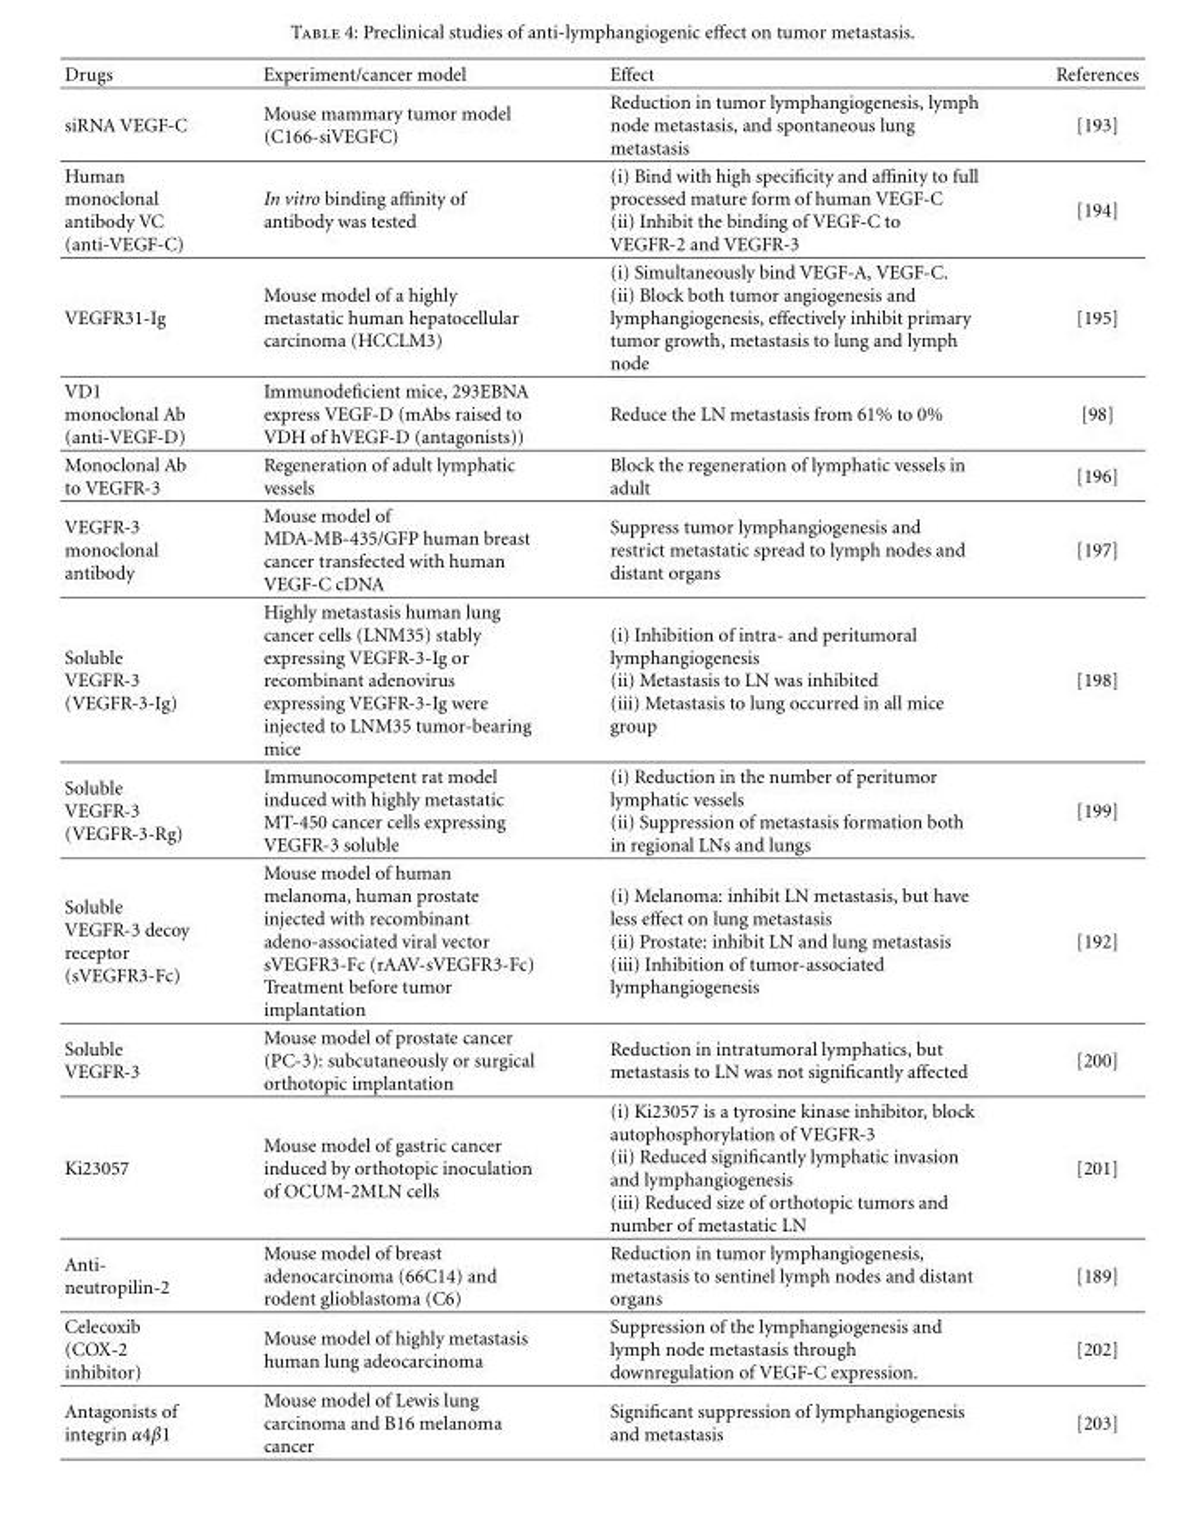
<table><thead><tr><td>Drugs</td><td>Experiment/cancer model</td><td>Effect</td><td>References</td></tr></thead><tbody><tr><td>siRNA VEGF-C</td><td>Mouse mammary tumor model (C166-siVEGFC)</td><td>Reduction in tumor lymphangiogenesis, lymph node metastasis, and spontaneous lung metastasis</td><td>[193]</td></tr><tr><td>Human monoclonal antibody VC (anti-VEGF-C)</td><td>In vitro binding affinity of antibody was tested</td><td>(i) Bind with high specificity and affinity to full processed mature form of human VEGF-C (ii) Inhibit the binding of VEGF-C to VEGFR-2 and VEGFR-3</td><td>[194]</td></tr><tr><td>VEGFR31-Ig</td><td>Mouse model of a highly metastatic human hepatocellular carcinoma (HCCLM3)</td><td>(i) Simultaneously bind VEGF-A, VEGF-C. (ii) Block both tumor angiogenesis and lymphangiogenesis, effectively inhibit primary tumor growth, metastasis to lung and lymph node</td><td>[195]</td></tr><tr><td>VD1 monoclonal Ab (anti-VEGF-D)</td><td>Immunodeficient mice, 293EBNA express VEGF-D (mAbs raised to VDH of hVEGF-D (antagonists))</td><td>Reduce the LN metastasis from 61% to 0%</td><td>[98]</td></tr><tr><td>Monoclonal Ab to VEGFR-3</td><td>Regeneration of adult lymphatic vessels</td><td>Block the regeneration of lymphatic vessels in adult</td><td>[196]</td></tr><tr><td>VEGFR-3 monoclonal antibody</td><td>Mouse model of MDA-MB-435/GFP human breast cancer transfected with human VEGF-C cDNA</td><td>Suppress tumor lymphangiogenesis and restrict metastatic spread to lymph nodes and distant organs</td><td>[197]</td></tr><tr><td>Soluble VEGFR-3 (VEGFR-3-Ig)</td><td>Highly metastasis human lung cancer cells (LNM35) stably expressing VEGFR-3-Ig or recombinant adenovirus expressing VEGFR-3-Ig were injected to LNM35 tumor-bearing mice</td><td>(i) Inhibition of intra- and peritumoral lymphangiogenesis (ii) Metastasis to LN was inhibited (iii) Metastasis to lung occurred in all mice group</td><td>[198]</td></tr><tr><td>Soluble VEGFR-3 (VEGFR-3-Rg)</td><td>Immunocompetent rat model induced with highly metastatic MT-450 cancer cells expressing VEGFR-3 soluble</td><td>(i) Reduction in the number of peritumor lymphatic vessels (ii) Suppression of metastasis formation both in regional LNs and lungs</td><td>[199]</td></tr><tr><td>Soluble VEGFR-3 decoy receptor (sVEGFR3-Fc)</td><td>Mouse model of human melanoma, human prostate injected with recombinant adeno-associated viral vector sVEGFR3-Fc (rAAV-sVEGFR3-Fc) Treatment before tumor implantation</td><td>(i) Melanoma: inhibit LN metastasis, but have less effect on lung metastasis (ii) Prostate: inhibit LN and lung metastasis (iii) Inhibition of tumor-associated lymphangiogenesis</td><td>[192]</td></tr><tr><td>Soluble VEGFR-3</td><td>Mouse model of prostate cancer (PC-3): subcutaneously or surgical orthotopic implantation</td><td>Reduction in intratumoral lymphatics, but metastasis to LN was not significantly affected</td><td>[200]</td></tr><tr><td>Ki23057</td><td>Mouse model of gastric cancer induced by orthotopic inoculation of OCUM-2MLN cells</td><td>(i) Ki23057 is a tyrosine kinase inhibitor, block autophosphorylation of VEGFR-3 (ii) Reduced significantly lymphatic invasion and lymphangiogenesis (iii) Reduced size of orthotopic tumors and number of metastatic LN</td><td>[201]</td></tr><tr><td>Anti- neutropilin-2</td><td>Mouse model of breast adenocarcinoma (66C14) and rodent glioblastoma (C6)</td><td>Reduction in tumor lymphangiogenesis, metastasis to sentinel lymph nodes and distant organs</td><td>[189]</td></tr><tr><td>Celecoxib (COX-2 inhibitor)</td><td>Mouse model of highly metastasis human lung adeocarcinoma</td><td>Suppression of the lymphangiogenesis and lymph node metastasis through downregulation of VEGF-C expression.</td><td>[202]</td></tr><tr><td>Antagonists of integrin α4β1</td><td>Mouse model of Lewis lung carcinoma and B16 melanoma cancer</td><td>Significant suppression of lymphangiogenesis and metastasis</td><td>[203]</td></tr></tbody></table>